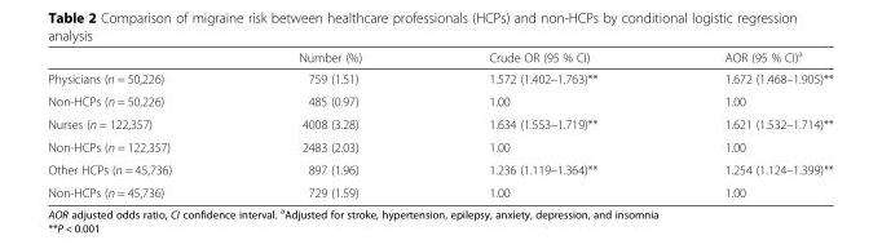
<table><thead><tr><td></td><td>Number (%)</td><td>Crude OR (95 % CI)</td><td>AOR (95 % CI)<sup>a</sup></td></tr></thead><tbody><tr><td>Physicians (n = 50,226)</td><td>759 (1.51)</td><td>1.572 (1.402–1.763)**</td><td>1.672 (1.468–1.905)**</td></tr><tr><td>Non-HCPs (n = 50,226)</td><td>485 (0.97)</td><td>1.00</td><td>1.00</td></tr><tr><td>Nurses (n = 122,357)</td><td>4008 (3.28)</td><td>1.634 (1.553–1.719)**</td><td>1.621 (1.532–1.714)**</td></tr><tr><td>Non-HCPs (n = 122,357)</td><td>2483 (2.03)</td><td>1.00</td><td>1.00</td></tr><tr><td>Other HCPs (n = 45,736)</td><td>897 (1.96)</td><td>1.236 (1.119–1.364)**</td><td>1.254 (1.124–1.399)**</td></tr><tr><td>Non-HCPs (n = 45,736)</td><td>729 (1.59)</td><td>1.00</td><td>1.00</td></tr></tbody></table>